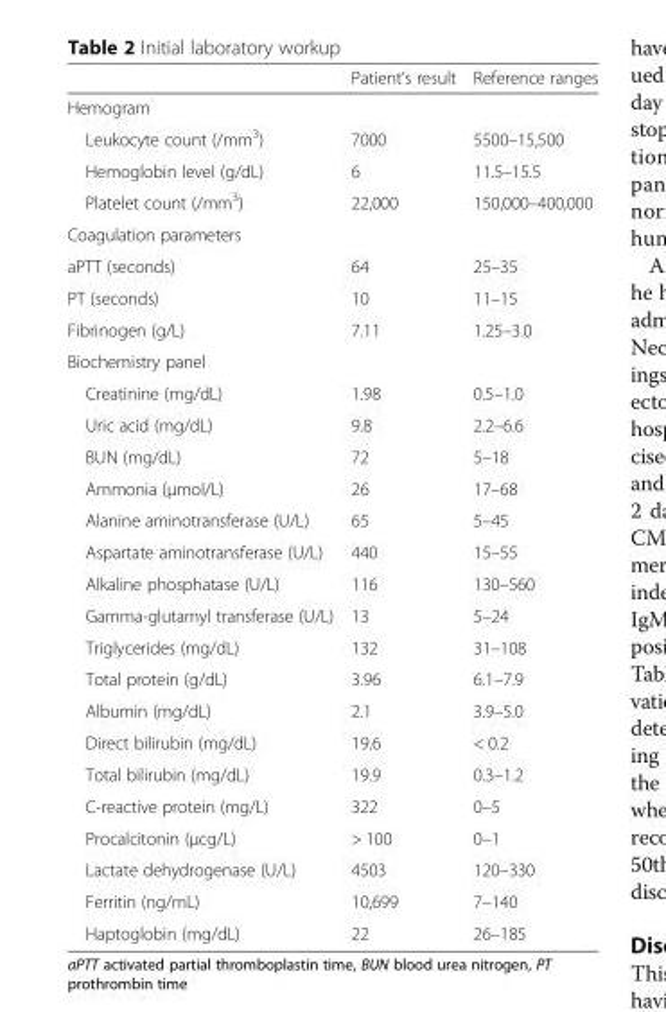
<table><thead><tr><td></td><td>Patient’s result</td><td>Reference ranges</td></tr></thead><tbody><tr><td colspan="3">Hemogram</td></tr><tr><td>Leukocyte count (/mm<sup>3</sup>)</td><td>7000</td><td>5500–15,500</td></tr><tr><td>Hemoglobin level (g/dL)</td><td>6</td><td>11.5–15.5</td></tr><tr><td>Platelet count (/mm<sup>3</sup>)</td><td>22,000</td><td>150,000–400,000</td></tr><tr><td colspan="3">Coagulation parameters</td></tr><tr><td>aPTT (seconds)</td><td>64</td><td>25–35</td></tr><tr><td>PT (seconds)</td><td>10</td><td>11–15</td></tr><tr><td>Fibrinogen (g/L)</td><td>7.11</td><td>1.25–3.0</td></tr><tr><td colspan="3">Biochemistry panel</td></tr><tr><td>Creatinine (mg/dL)</td><td>1.98</td><td>0.5–1.0</td></tr><tr><td>Uric acid (mg/dL)</td><td>9.8</td><td>2.2–6.6</td></tr><tr><td>BUN (mg/dL)</td><td>72</td><td>5–18</td></tr><tr><td>Ammonia (μmol/L)</td><td>26</td><td>17–68</td></tr><tr><td>Alanine aminotransferase (U/L)</td><td>65</td><td>5–45</td></tr><tr><td>Aspartate aminotransferase (U/L)</td><td>440</td><td>15–55</td></tr><tr><td>Alkaline phosphatase (U/L)</td><td>116</td><td>130–560</td></tr><tr><td>Gamma-glutamyl transferase (U/L)</td><td>13</td><td>5–24</td></tr><tr><td>Triglycerides (mg/dL)</td><td>132</td><td>31–108</td></tr><tr><td>Total protein (g/dL)</td><td>3.96</td><td>6.1–7.9</td></tr><tr><td>Albumin (mg/dL)</td><td>2.1</td><td>3.9–5.0</td></tr><tr><td>Direct bilirubin (mg/dL)</td><td>19.6</td><td>&lt; 0.2</td></tr><tr><td>Total bilirubin (mg/dL)</td><td>19.9</td><td>0.3–1.2</td></tr><tr><td>C-reactive protein (mg/L)</td><td>322</td><td>0–5</td></tr><tr><td>Procalcitonin (μcg/L)</td><td>&gt; 100</td><td>0–1</td></tr><tr><td>Lactate dehydrogenase (U/L)</td><td>4503</td><td>120–330</td></tr><tr><td>Ferritin (ng/mL)</td><td>10,699</td><td>7–140</td></tr><tr><td>Haptoglobin (mg/dL)</td><td>22</td><td>26–185</td></tr></tbody></table>